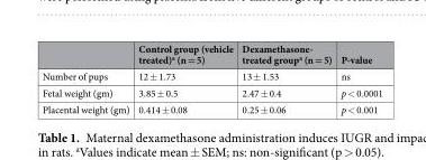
<table><thead><tr><td></td><td>Control group (vehicle treated)<sup>a</sup> (n = 5)</td><td>Dexamethasone- treated group<sup>a</sup> (n = 5)</td><td>P-value</td></tr></thead><tbody><tr><td>Number of pups</td><td>12 ± 1.73</td><td>13 ± 1.53</td><td>ns</td></tr><tr><td>Fetal weight (gm)</td><td>3.85 ± 0.5</td><td>2.47 ± 0.4</td><td>p &lt; 0.0001</td></tr><tr><td>Placental weight (gm)</td><td>0.414 ± 0.08</td><td>0.25 ± 0.06</td><td>p &lt; 0.001</td></tr></tbody></table>